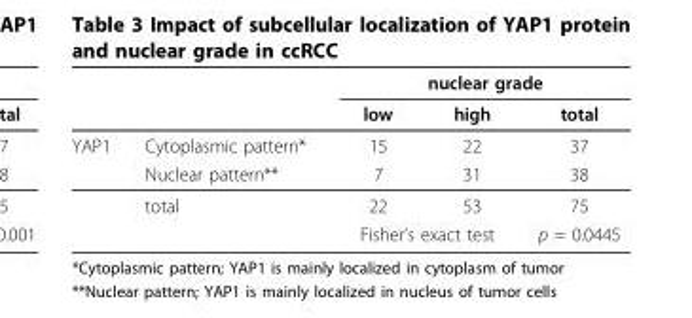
<table><thead><tr><td rowspan="2"></td><td rowspan="2"></td><td colspan="3">nuclear grade</td></tr><tr><td>low</td><td>high</td><td>total</td></tr></thead><tbody><tr><td rowspan="4">YAP1</td><td>Cytoplasmic pattern*</td><td>15</td><td>22</td><td>37</td></tr><tr><td>Nuclear pattern**</td><td>7</td><td>31</td><td>38</td></tr><tr><td>total</td><td>22</td><td>53</td><td>75</td></tr><tr><td></td><td colspan="2">Fisher’s exact test</td><td>p = 0.0445</td></tr></tbody></table>